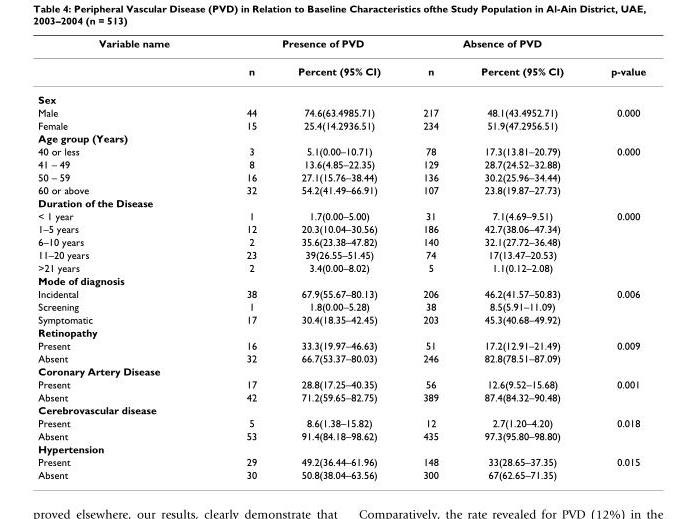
<table><thead><tr><td rowspan="2">Variable name</td><td colspan="2">Presence of PVD</td><td colspan="2">Absence of PVD</td><td rowspan="2">p-value</td></tr><tr><td>n</td><td>Percent (95% CI)</td><td>n</td><td>Percent (95% CI)</td></tr></thead><tbody><tr><td colspan="6">Sex</td></tr><tr><td>Male</td><td>44</td><td>74.6(63.4985.71)</td><td>217</td><td>48.1(43.4952.71)</td><td>0.000</td></tr><tr><td>Female</td><td>15</td><td>25.4(14.2936.51)</td><td>234</td><td>51.9(47.2956.51)</td><td></td></tr><tr><td colspan="6">Age group (Years)</td></tr><tr><td>40 or less</td><td>3</td><td>5.1(0.00–10.71)</td><td>78</td><td>17.3(13.81–20.79)</td><td>0.000</td></tr><tr><td>41 – 49</td><td>8</td><td>13.6(4.85–22.35)</td><td>129</td><td>28.7(24.52–32.88)</td><td></td></tr><tr><td>50 – 59</td><td>16</td><td>27.1(15.76–38.44)</td><td>136</td><td>30.2(25.96–34.44)</td><td></td></tr><tr><td>60 or above</td><td>32</td><td>54.2(41.49–66.91)</td><td>107</td><td>23.8(19.87–27.73)</td><td></td></tr><tr><td colspan="6">Duration of the Disease</td></tr><tr><td>&lt; 1 year</td><td>1</td><td>1.7(0.00–5.00)</td><td>31</td><td>7.1(4.69–9.51)</td><td>0.000</td></tr><tr><td>1–5 years</td><td>12</td><td>20.3(10.04–30.56)</td><td>186</td><td>42.7(38.06–47.34)</td><td></td></tr><tr><td>6–10 years</td><td>2</td><td>35.6(23.38–47.82)</td><td>140</td><td>32.1(27.72–36.48)</td><td></td></tr><tr><td>11–20 years</td><td>23</td><td>39(26.55–51.45)</td><td>74</td><td>17(13.47–20.53)</td><td></td></tr><tr><td>&gt;21 years</td><td>2</td><td>3.4(0.00–8.02)</td><td>5</td><td>1.1(0.12–2.08)</td><td></td></tr><tr><td colspan="6">Mode of diagnosis</td></tr><tr><td>Incidental</td><td>38</td><td>67.9(55.67–80.13)</td><td>206</td><td>46.2(41.57–50.83)</td><td>0.006</td></tr><tr><td>Screening</td><td>1</td><td>1.8(0.00–5.28)</td><td>38</td><td>8.5(5.91–11.09)</td><td></td></tr><tr><td>Symptomatic</td><td>17</td><td>30.4(18.35–42.45)</td><td>203</td><td>45.3(40.68–49.92)</td><td></td></tr><tr><td colspan="6">Retinopathy</td></tr><tr><td>Present</td><td>16</td><td>33.3(19.97–46.63)</td><td>51</td><td>17.2(12.91–21.49)</td><td>0.009</td></tr><tr><td>Absent</td><td>32</td><td>66.7(53.37–80.03)</td><td>246</td><td>82.8(78.51–87.09)</td><td></td></tr><tr><td colspan="6">Coronary Artery Disease</td></tr><tr><td>Present</td><td>17</td><td>28.8(17.25–40.35)</td><td>56</td><td>12.6(9.52–15.68)</td><td>0.001</td></tr><tr><td>Absent</td><td>42</td><td>71.2(59.65–82.75)</td><td>389</td><td>87.4(84.32–90.48)</td><td></td></tr><tr><td colspan="6">Cerebrovascular disease</td></tr><tr><td>Present</td><td>5</td><td>8.6(1.38–15.82)</td><td>12</td><td>2.7(1.20–4.20)</td><td>0.018</td></tr><tr><td>Absent</td><td>53</td><td>91.4(84.18–98.62)</td><td>435</td><td>97.3(95.80–98.80)</td><td></td></tr><tr><td colspan="6">Hypertension</td></tr><tr><td>Present</td><td>29</td><td>49.2(36.44–61.96)</td><td>148</td><td>33(28.65–37.35)</td><td>0.015</td></tr><tr><td>Absent</td><td>30</td><td>50.8(38.04–63.56)</td><td>300</td><td>67(62.65–71.35)</td><td></td></tr></tbody></table>